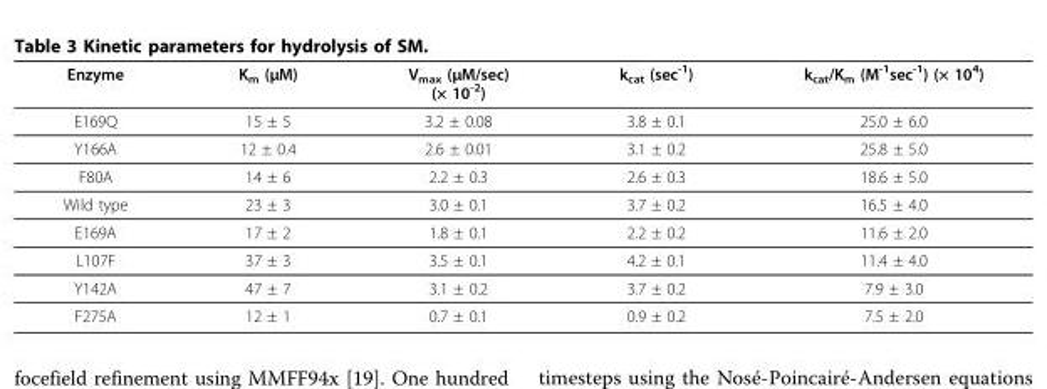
<table><thead><tr><td>Enzyme</td><td>K<sub>m</sub> (μM)</td><td>V<sub>max</sub> (μM/sec) (× 10<sup>-2</sup>)</td><td>k<sub>cat</sub> (sec<sup>-1</sup>)</td><td>k<sub>cat</sub>/K<sub>m</sub> (M<sup>-1</sup>sec<sup>-1</sup>) (× 10<sup>4</sup>)</td></tr></thead><tbody><tr><td>E169Q</td><td>15 ± 5</td><td>3.2 ± 0.08</td><td>3.8 ± 0.1</td><td>25.0 ± 6.0</td></tr><tr><td>Y166A</td><td>12 ± 0.4</td><td>2.6 ± 0.01</td><td>3.1 ± 0.2</td><td>25.8 ± 5.0</td></tr><tr><td>F80A</td><td>14 ± 6</td><td>2.2 ± 0.3</td><td>2.6 ± 0.3</td><td>18.6 ± 5.0</td></tr><tr><td>Wild type</td><td>23 ± 3</td><td>3.0 ± 0.1</td><td>3.7 ± 0.2</td><td>16.5 ± 4.0</td></tr><tr><td>E169A</td><td>17 ± 2</td><td>1.8 ± 0.1</td><td>2.2 ± 0.2</td><td>11.6 ± 2.0</td></tr><tr><td>L107F</td><td>37 ± 3</td><td>3.5 ± 0.1</td><td>4.2 ± 0.1</td><td>11.4 ± 4.0</td></tr><tr><td>Y142A</td><td>47 ± 7</td><td>3.1 ± 0.2</td><td>3.7 ± 0.2</td><td>7.9 ± 3.0</td></tr><tr><td>F275A</td><td>12 ± 1</td><td>0.7 ± 0.1</td><td>0.9 ± 0.2</td><td>7.5 ± 2.0</td></tr></tbody></table>